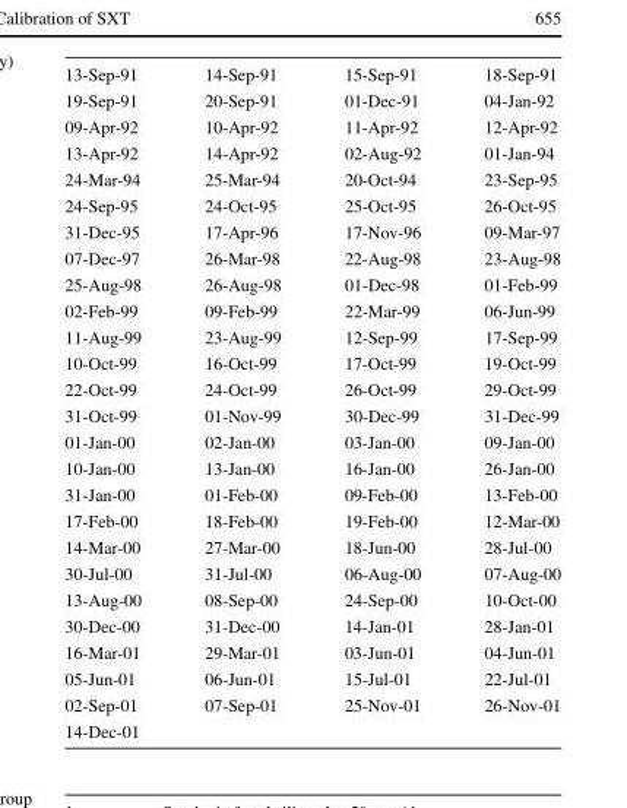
<table><tbody><tr><td>13-Sep-91</td><td>14-Sep-91</td><td>15-Sep-91</td><td>18-Sep-91</td></tr><tr><td>19-Sep-91</td><td>20-Sep-91</td><td>01-Dec-91</td><td>04-Jan-92</td></tr><tr><td>09-Apr-92</td><td>10-Apr-92</td><td>11-Apr-92</td><td>12-Apr-92</td></tr><tr><td>13-Apr-92</td><td>14-Apr-92</td><td>02-Aug-92</td><td>01-Jan-94</td></tr><tr><td>24-Mar-94</td><td>25-Mar-94</td><td>20-Oct-94</td><td>23-Sep-95</td></tr><tr><td>24-Sep-95</td><td>24-Oct-95</td><td>25-Oct-95</td><td>26-Oct-95</td></tr><tr><td>31-Dec-95</td><td>17-Apr-96</td><td>17-Nov-96</td><td>09-Mar-97</td></tr><tr><td>07-Dec-97</td><td>26-Mar-98</td><td>22-Aug-98</td><td>23-Aug-98</td></tr><tr><td>25-Aug-98</td><td>26-Aug-98</td><td>01-Dec-98</td><td>01-Feb-99</td></tr><tr><td>02-Feb-99</td><td>09-Feb-99</td><td>22-Mar-99</td><td>06-Jun-99</td></tr><tr><td>11-Aug-99</td><td>23-Aug-99</td><td>12-Sep-99</td><td>17-Sep-99</td></tr><tr><td>10-Oct-99</td><td>16-Oct-99</td><td>17-Oct-99</td><td>19-Oct-99</td></tr><tr><td>22-Oct-99</td><td>24-Oct-99</td><td>26-Oct-99</td><td>29-Oct-99</td></tr><tr><td>31-Oct-99</td><td>01-Nov-99</td><td>30-Dec-99</td><td>31-Dec-99</td></tr><tr><td>01-Jan-00</td><td>02-Jan-00</td><td>03-Jan-00</td><td>09-Jan-00</td></tr><tr><td>10-Jan-00</td><td>13-Jan-00</td><td>16-Jan-00</td><td>26-Jan-00</td></tr><tr><td>31-Jan-00</td><td>01-Feb-00</td><td>09-Feb-00</td><td>13-Feb-00</td></tr><tr><td>17-Feb-00</td><td>18-Feb-00</td><td>19-Feb-00</td><td>12-Mar-00</td></tr><tr><td>14-Mar-00</td><td>27-Mar-00</td><td>18-Jun-00</td><td>28-Jul-00</td></tr><tr><td>30-Jul-00</td><td>31-Jul-00</td><td>06-Aug-00</td><td>07-Aug-00</td></tr><tr><td>13-Aug-00</td><td>08-Sep-00</td><td>24-Sep-00</td><td>10-Oct-00</td></tr><tr><td>30-Dec-00</td><td>31-Dec-00</td><td>14-Jan-01</td><td>28-Jan-01</td></tr><tr><td>16-Mar-01</td><td>29-Mar-01</td><td>03-Jun-01</td><td>04-Jun-01</td></tr><tr><td>05-Jun-01</td><td>06-Jun-01</td><td>15-Jul-01</td><td>22-Jul-01</td></tr><tr><td>02-Sep-01</td><td>07-Sep-01</td><td>25-Nov-01</td><td>26-Nov-01</td></tr><tr><td>14-Dec-01</td><td></td><td></td><td></td></tr></tbody></table>